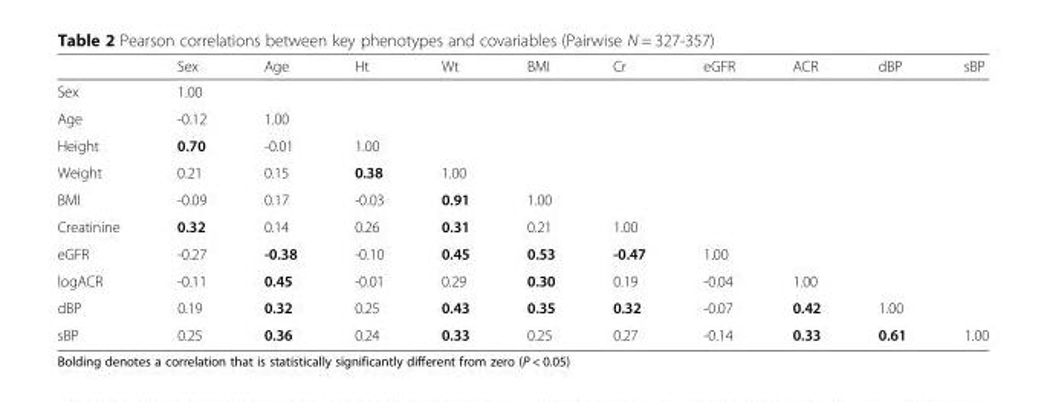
<table><thead><tr><td></td><td>Sex</td><td>Age</td><td>Ht</td><td>Wt</td><td>BMI</td><td>Cr</td><td>eGFR</td><td>ACR</td><td>dBP</td><td>sBP</td></tr></thead><tbody><tr><td>Sex</td><td>1.00</td><td colspan="9"></td></tr><tr><td>Age</td><td>-0.12</td><td>1.00</td><td colspan="8"></td></tr><tr><td>Height</td><td>0.70</td><td>-0.01</td><td>1.00</td><td colspan="7"></td></tr><tr><td>Weight</td><td>0.21</td><td>0.15</td><td>0.38</td><td>1.00</td><td colspan="6"></td></tr><tr><td>BMI</td><td>-0.09</td><td>0.17</td><td>-0.03</td><td>0.91</td><td>1.00</td><td colspan="5"></td></tr><tr><td>Creatinine</td><td>0.32</td><td>0.14</td><td>0.26</td><td>0.31</td><td>0.21</td><td>1.00</td><td colspan="4"></td></tr><tr><td>eGFR</td><td>-0.27</td><td>-0.38</td><td>-0.10</td><td>0.45</td><td>0.53</td><td>-0.47</td><td>1.00</td><td colspan="3"></td></tr><tr><td>logACR</td><td>-0.11</td><td>0.45</td><td>-0.01</td><td>0.29</td><td>0.30</td><td>0.19</td><td>-0.04</td><td>1.00</td><td colspan="2"></td></tr><tr><td>dBP</td><td>0.19</td><td>0.32</td><td>0.25</td><td>0.43</td><td>0.35</td><td>0.32</td><td>-0.07</td><td>0.42</td><td>1.00</td><td></td></tr><tr><td>sBP</td><td>0.25</td><td>0.36</td><td>0.24</td><td>0.33</td><td>0.25</td><td>0.27</td><td>-0.14</td><td>0.33</td><td>0.61</td><td>1.00</td></tr></tbody></table>